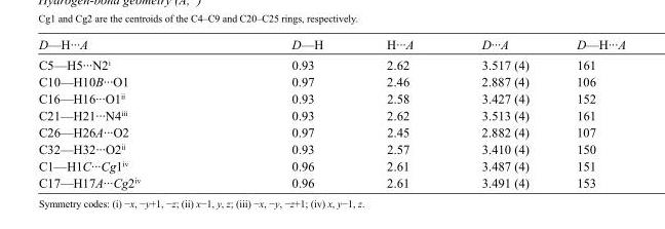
<table><tbody><tr><td>D—H···A</td><td>D—H</td><td>H···A</td><td>D···A</td><td>D—H···A</td></tr><tr><td>C5—H5···N2<sup>i</sup></td><td>0.93</td><td>2.62</td><td>3.517 (4)</td><td>161</td></tr><tr><td>C10—H10B···O1</td><td>0.97</td><td>2.46</td><td>2.887 (4)</td><td>106</td></tr><tr><td>C16—H16···O1<sup>ii</sup></td><td>0.93</td><td>2.58</td><td>3.427 (4)</td><td>152</td></tr><tr><td>C21—H21···N4<sup>iii</sup></td><td>0.93</td><td>2.62</td><td>3.513 (4)</td><td>161</td></tr><tr><td>C26—H26A···O2</td><td>0.97</td><td>2.45</td><td>2.882 (4)</td><td>107</td></tr><tr><td>C32—H32···O2<sup>ii</sup></td><td>0.93</td><td>2.57</td><td>3.410 (4)</td><td>150</td></tr><tr><td>C1—H1C···Cg1<sup>iv</sup></td><td>0.96</td><td>2.61</td><td>3.487 (4)</td><td>151</td></tr><tr><td>C17—H17A···Cg2<sup>iv</sup></td><td>0.96</td><td>2.61</td><td>3.491 (4)</td><td>153</td></tr></tbody></table>